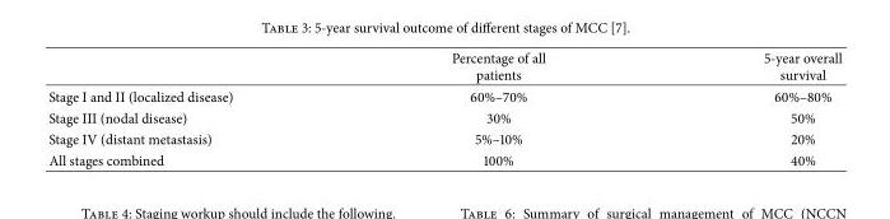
<table><thead><tr><td></td><td>Percentage of all patients</td><td>5-year overall survival</td></tr></thead><tbody><tr><td>Stage I and II (localized disease)</td><td>60%–70%</td><td>60%–80%</td></tr><tr><td>Stage III (nodal disease)</td><td>30%</td><td>50%</td></tr><tr><td>Stage IV (distant metastasis)</td><td>5%–10%</td><td>20%</td></tr><tr><td>All stages combined</td><td>100%</td><td>40%</td></tr></tbody></table>